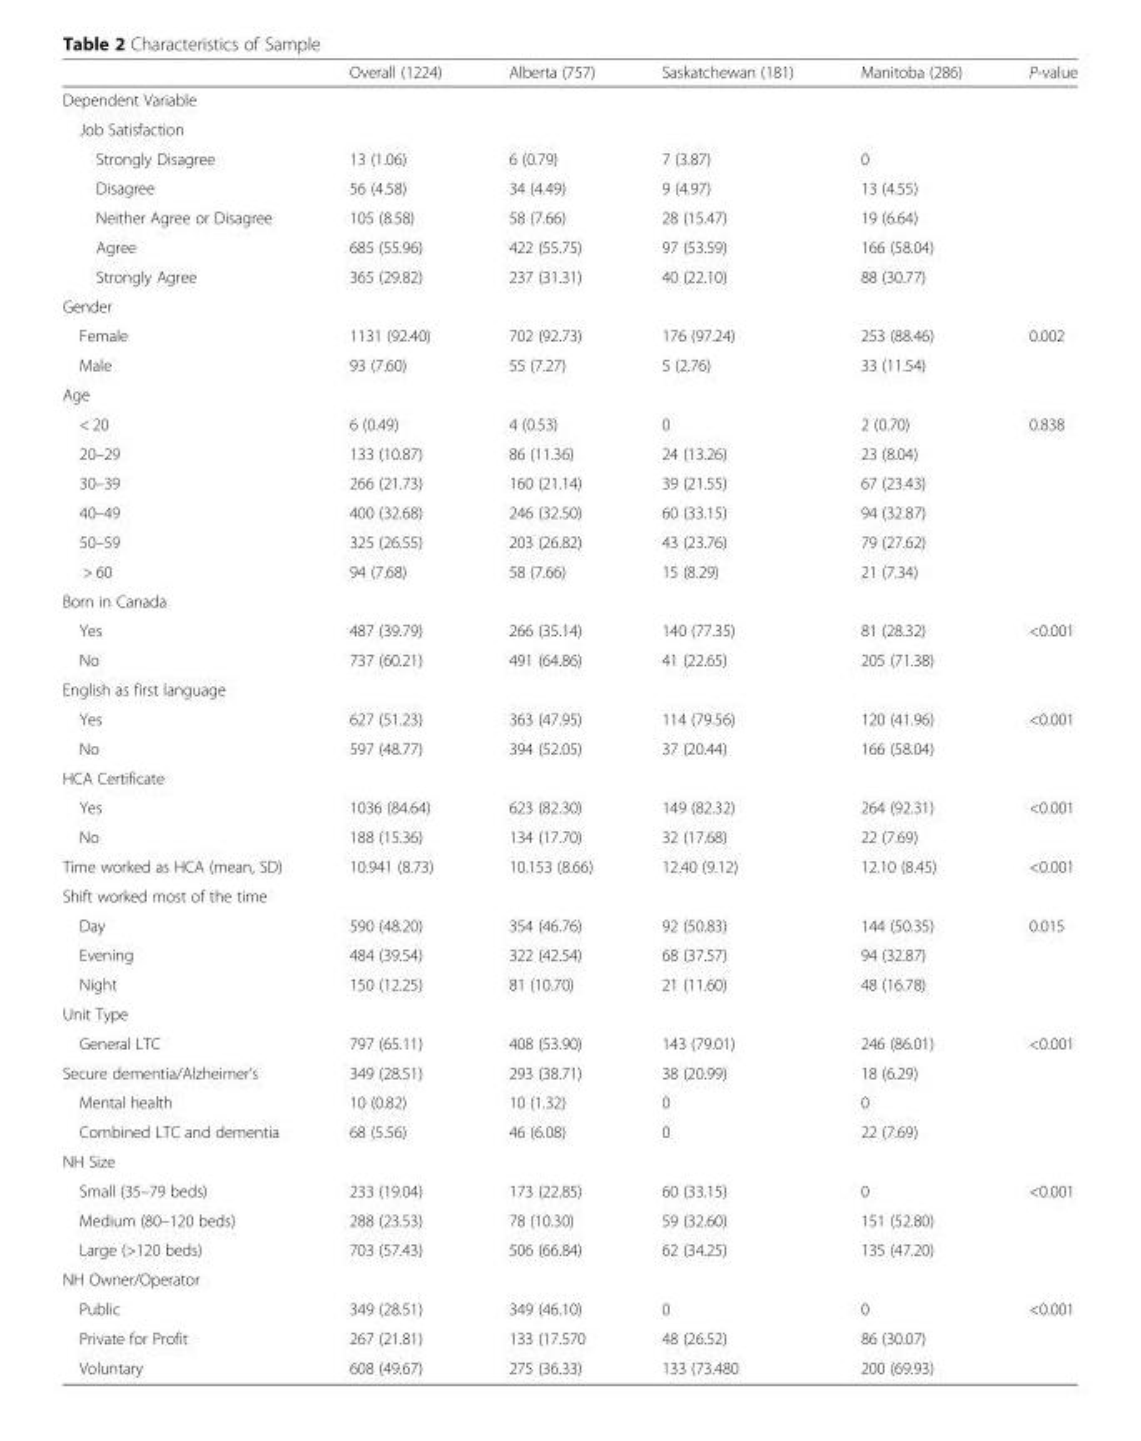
<table><thead><tr><td></td><td>Overall (1224)</td><td>Alberta (757)</td><td>Saskatchewan (181)</td><td>Manitoba (286)</td><td>P-value</td></tr></thead><tbody><tr><td colspan="6">Dependent Variable</td></tr><tr><td colspan="6">Job Satisfaction</td></tr><tr><td>Strongly Disagree</td><td>13 (1.06)</td><td>6 (0.79)</td><td>7 (3.87)</td><td>0</td><td></td></tr><tr><td>Disagree</td><td>56 (4.58)</td><td>34 (4.49)</td><td>9 (4.97)</td><td>13 (4.55)</td><td></td></tr><tr><td>Neither Agree or Disagree</td><td>105 (8.58)</td><td>58 (7.66)</td><td>28 (15.47)</td><td>19 (6.64)</td><td></td></tr><tr><td>Agree</td><td>685 (55.96)</td><td>422 (55.75)</td><td>97 (53.59)</td><td>166 (58.04)</td><td></td></tr><tr><td>Strongly Agree</td><td>365 (29.82)</td><td>237 (31.31)</td><td>40 (22.10)</td><td>88 (30.77)</td><td></td></tr><tr><td colspan="6">Gender</td></tr><tr><td>Female</td><td>1131 (92.40)</td><td>702 (92.73)</td><td>176 (97.24)</td><td>253 (88.46)</td><td>0.002</td></tr><tr><td>Male</td><td>93 (7.60)</td><td>55 (7.27)</td><td>5 (2.76)</td><td>33 (11.54)</td><td></td></tr><tr><td colspan="6">Age</td></tr><tr><td>&lt; 20</td><td>6 (0.49)</td><td>4 (0.53)</td><td>0</td><td>2 (0.70)</td><td>0.838</td></tr><tr><td>20–29</td><td>133 (10.87)</td><td>86 (11.36)</td><td>24 (13.26)</td><td>23 (8.04)</td><td></td></tr><tr><td>30–39</td><td>266 (21.73)</td><td>160 (21.14)</td><td>39 (21.55)</td><td>67 (23.43)</td><td></td></tr><tr><td>40–49</td><td>400 (32.68)</td><td>246 (32.50)</td><td>60 (33.15)</td><td>94 (32.87)</td><td></td></tr><tr><td>50–59</td><td>325 (26.55)</td><td>203 (26.82)</td><td>43 (23.76)</td><td>79 (27.62)</td><td></td></tr><tr><td>&gt; 60</td><td>94 (7.68)</td><td>58 (7.66)</td><td>15 (8.29)</td><td>21 (7.34)</td><td></td></tr><tr><td colspan="6">Born in Canada</td></tr><tr><td>Yes</td><td>487 (39.79)</td><td>266 (35.14)</td><td>140 (77.35)</td><td>81 (28.32)</td><td>&lt;0.001</td></tr><tr><td>No</td><td>737 (60.21)</td><td>491 (64.86)</td><td>41 (22.65)</td><td>205 (71.38)</td><td></td></tr><tr><td colspan="6">English as first language</td></tr><tr><td>Yes</td><td>627 (51.23)</td><td>363 (47.95)</td><td>114 (79.56)</td><td>120 (41.96)</td><td>&lt;0.001</td></tr><tr><td>No</td><td>597 (48.77)</td><td>394 (52.05)</td><td>37 (20.44)</td><td>166 (58.04)</td><td></td></tr><tr><td colspan="6">HCA Certificate</td></tr><tr><td>Yes</td><td>1036 (84.64)</td><td>623 (82.30)</td><td>149 (82.32)</td><td>264 (92.31)</td><td>&lt;0.001</td></tr><tr><td>No</td><td>188 (15.36)</td><td>134 (17.70)</td><td>32 (17.68)</td><td>22 (7.69)</td><td></td></tr><tr><td>Time worked as HCA (mean, SD)</td><td>10.941 (8.73)</td><td>10.153 (8.66)</td><td>12.40 (9.12)</td><td>12.10 (8.45)</td><td>&lt;0.001</td></tr><tr><td colspan="6">Shift worked most of the time</td></tr><tr><td>Day</td><td>590 (48.20)</td><td>354 (46.76)</td><td>92 (50.83)</td><td>144 (50.35)</td><td>0.015</td></tr><tr><td>Evening</td><td>484 (39.54)</td><td>322 (42.54)</td><td>68 (37.57)</td><td>94 (32.87)</td><td></td></tr><tr><td>Night</td><td>150 (12.25)</td><td>81 (10.70)</td><td>21 (11.60)</td><td>48 (16.78)</td><td></td></tr><tr><td colspan="6">Unit Type</td></tr><tr><td>General LTC</td><td>797 (65.11)</td><td>408 (53.90)</td><td>143 (79.01)</td><td>246 (86.01)</td><td>&lt;0.001</td></tr><tr><td>Secure dementia/Alzheimer’s</td><td>349 (28.51)</td><td>293 (38.71)</td><td>38 (20.99)</td><td>18 (6.29)</td><td></td></tr><tr><td>Mental health</td><td>10 (0.82)</td><td>10 (1.32)</td><td>0</td><td>0</td><td></td></tr><tr><td>Combined LTC and dementia</td><td>68 (5.56)</td><td>46 (6.08)</td><td>0</td><td>22 (7.69)</td><td></td></tr><tr><td colspan="6">NH Size</td></tr><tr><td>Small (35–79 beds)</td><td>233 (19.04)</td><td>173 (22.85)</td><td>60 (33.15)</td><td>0</td><td>&lt;0.001</td></tr><tr><td>Medium (80–120 beds)</td><td>288 (23.53)</td><td>78 (10.30)</td><td>59 (32.60)</td><td>151 (52.80)</td><td></td></tr><tr><td>Large (&gt;120 beds)</td><td>703 (57.43)</td><td>506 (66.84)</td><td>62 (34.25)</td><td>135 (47.20)</td><td></td></tr><tr><td colspan="6">NH Owner/Operator</td></tr><tr><td>Public</td><td>349 (28.51)</td><td>349 (46.10)</td><td>0</td><td>0</td><td>&lt;0.001</td></tr><tr><td>Private for Profit</td><td>267 (21.81)</td><td>133 (17.570</td><td>48 (26.52)</td><td>86 (30.07)</td><td></td></tr><tr><td>Voluntary</td><td>608 (49.67)</td><td>275 (36.33)</td><td>133 (73.480</td><td>200 (69.93)</td><td></td></tr></tbody></table>